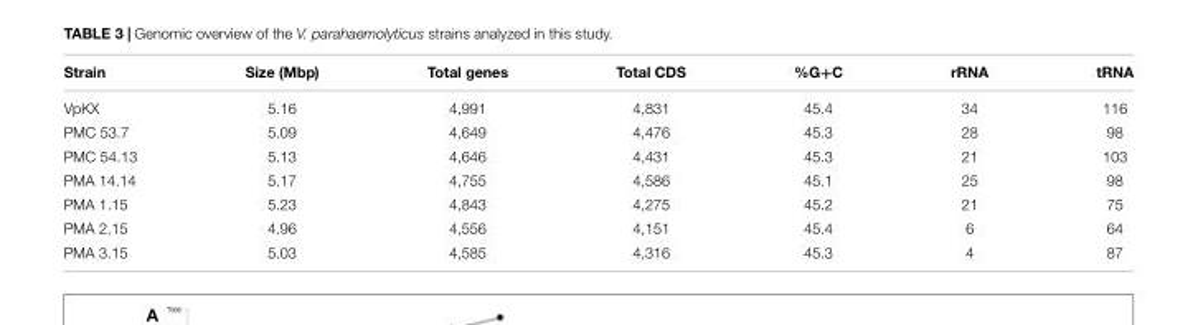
<table><thead><tr><td>Strain</td><td>Size (Mbp)</td><td>Total genes</td><td>Total CDS</td><td>%G+C</td><td>rRNA</td><td>tRNA</td></tr></thead><tbody><tr><td>VpKX</td><td>5.16</td><td>4,991</td><td>4,831</td><td>45.4</td><td>34</td><td>116</td></tr><tr><td>PMC 53.7</td><td>5.09</td><td>4,649</td><td>4,476</td><td>45.3</td><td>28</td><td>98</td></tr><tr><td>PMC 54.13</td><td>5.13</td><td>4,646</td><td>4,431</td><td>45.3</td><td>21</td><td>103</td></tr><tr><td>PMA 14.14</td><td>5.17</td><td>4,755</td><td>4,586</td><td>45.1</td><td>25</td><td>98</td></tr><tr><td>PMA 1.15</td><td>5.23</td><td>4,843</td><td>4,275</td><td>45.2</td><td>21</td><td>75</td></tr><tr><td>PMA 2.15</td><td>4.96</td><td>4,556</td><td>4,151</td><td>45.4</td><td>6</td><td>64</td></tr><tr><td>PMA 3.15</td><td>5.03</td><td>4,585</td><td>4,316</td><td>45.3</td><td>4</td><td>87</td></tr></tbody></table>